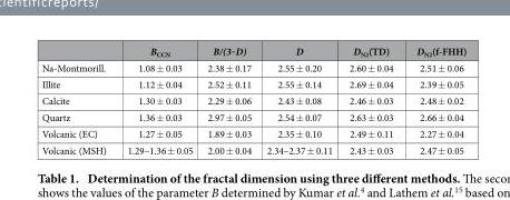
<table><thead><tr><td></td><td>B<sub>CCN</sub></td><td>B/(3-D)</td><td>D</td><td>D<sub>N2</sub>(TD)</td><td>D<sub>N2</sub>(f-FHH)</td></tr></thead><tbody><tr><td>Na-Montmorill.</td><td>1.08 ± 0.03</td><td>2.38 ± 0.17</td><td>2.55 ± 0.20</td><td>2.60 ± 0.04</td><td>2.51 ± 0.06</td></tr><tr><td>Illite</td><td>1.12 ± 0.04</td><td>2.52 ± 0.11</td><td>2.55 ± 0.14</td><td>2.69 ± 0.04</td><td>2.39 ± 0.05</td></tr><tr><td>Calcite</td><td>1.30 ± 0.03</td><td>2.29 ± 0.06</td><td>2.43 ± 0.08</td><td>2.46 ± 0.03</td><td>2.48 ± 0.02</td></tr><tr><td>Quartz</td><td>1.36 ± 0.03</td><td>2.97 ± 0.05</td><td>2.54 ± 0.07</td><td>2.63 ± 0.03</td><td>2.66 ± 0.04</td></tr><tr><td>Volcanic (EC)</td><td>1.27 ± 0.05</td><td>1.89 ± 0.03</td><td>2.35 ± 0.10</td><td>2.49 ± 0.11</td><td>2.27 ± 0.04</td></tr><tr><td>Volcanic (MSH)</td><td>1.29–1.36 ± 0.05</td><td>2.00 ± 0.04</td><td>2.34–2.37 ± 0.11</td><td>2.43 ± 0.03</td><td>2.47 ± 0.05</td></tr></tbody></table>